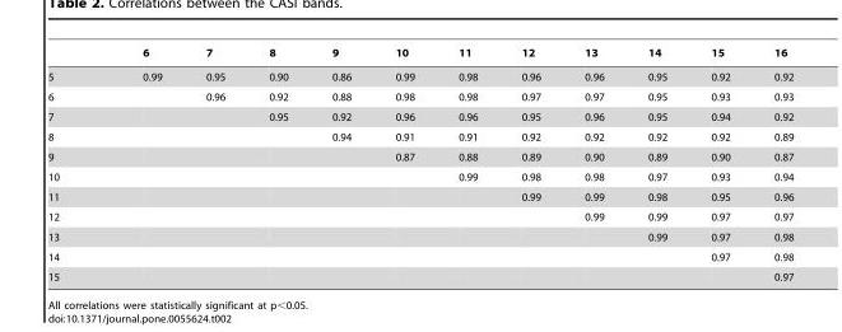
<table><thead><tr><td></td><td>6</td><td>7</td><td>8</td><td>9</td><td>10</td><td>11</td><td>12</td><td>13</td><td>14</td><td>15</td><td>16</td></tr></thead><tbody><tr><td>5</td><td>0.99</td><td>0.95</td><td>0.90</td><td>0.86</td><td>0.99</td><td>0.98</td><td>0.96</td><td>0.96</td><td>0.95</td><td>0.92</td><td>0.92</td></tr><tr><td>6</td><td></td><td>0.96</td><td>0.92</td><td>0.88</td><td>0.98</td><td>0.98</td><td>0.97</td><td>0.97</td><td>0.95</td><td>0.93</td><td>0.93</td></tr><tr><td>7</td><td></td><td></td><td>0.95</td><td>0.92</td><td>0.96</td><td>0.96</td><td>0.95</td><td>0.96</td><td>0.95</td><td>0.94</td><td>0.92</td></tr><tr><td>8</td><td></td><td></td><td></td><td>0.94</td><td>0.91</td><td>0.91</td><td>0.92</td><td>0.92</td><td>0.92</td><td>0.92</td><td>0.89</td></tr><tr><td>9</td><td></td><td></td><td></td><td></td><td>0.87</td><td>0.88</td><td>0.89</td><td>0.90</td><td>0.89</td><td>0.90</td><td>0.87</td></tr><tr><td>10</td><td></td><td></td><td></td><td></td><td></td><td>0.99</td><td>0.98</td><td>0.98</td><td>0.97</td><td>0.93</td><td>0.94</td></tr><tr><td>11</td><td></td><td></td><td></td><td></td><td></td><td></td><td>0.99</td><td>0.99</td><td>0.98</td><td>0.95</td><td>0.96</td></tr><tr><td>12</td><td></td><td></td><td></td><td></td><td></td><td></td><td></td><td>0.99</td><td>0.99</td><td>0.97</td><td>0.97</td></tr><tr><td>13</td><td></td><td></td><td></td><td></td><td></td><td></td><td></td><td></td><td>0.99</td><td>0.97</td><td>0.98</td></tr><tr><td>14</td><td></td><td></td><td></td><td></td><td></td><td></td><td></td><td></td><td></td><td>0.97</td><td>0.98</td></tr><tr><td>15</td><td></td><td></td><td></td><td></td><td></td><td></td><td></td><td></td><td></td><td></td><td>0.97</td></tr></tbody></table>